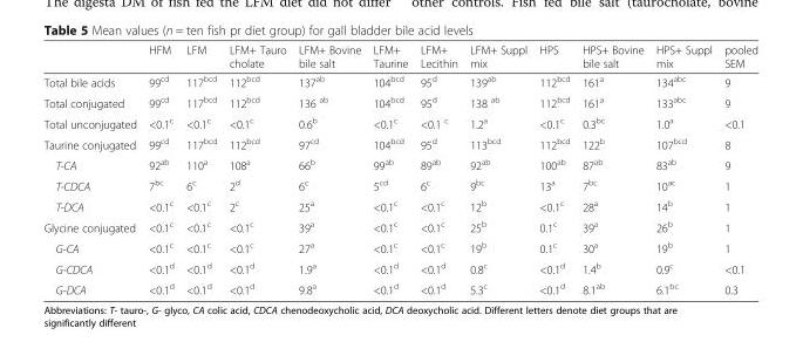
<table><thead><tr><td></td><td>HFM</td><td>LFM</td><td>LFM+ Tauro cholate</td><td>LFM+ Bovine bile salt</td><td>LFM+ Taurine</td><td>LFM+ Lecithin</td><td>LFM+ Suppl mix</td><td>HPS</td><td>HPS+ Bovine bile salt</td><td>HPS+ Suppl mix</td><td>pooled SEM</td></tr></thead><tbody><tr><td>Total bile acids</td><td>99<sup>cd</sup></td><td>117<sup>bcd</sup></td><td>112<sup>bcd</sup></td><td>137<sup>ab</sup></td><td>104<sup>bcd</sup></td><td>95<sup>d</sup></td><td>139<sup>ab</sup></td><td>112<sup>bcd</sup></td><td>161<sup>a</sup></td><td>134<sup>abc</sup></td><td>9</td></tr><tr><td>Total conjugated</td><td>99<sup>cd</sup></td><td>117<sup>bcd</sup></td><td>112<sup>bcd</sup></td><td>136 <sup>ab</sup></td><td>104<sup>bcd</sup></td><td>95<sup>d</sup></td><td>138 <sup>ab</sup></td><td>112<sup>bcd</sup></td><td>161<sup>a</sup></td><td>133<sup>abc</sup></td><td>9</td></tr><tr><td>Total unconjugated</td><td>&lt;0.1<sup>c</sup></td><td>&lt;0.1<sup>c</sup></td><td>&lt;0.1<sup>c</sup></td><td>0.6<sup>b</sup></td><td>&lt;0.1<sup>c</sup></td><td>&lt;0.1 <sup>c</sup></td><td>1.2<sup>a</sup></td><td>&lt;0.1<sup>c</sup></td><td>0.3<sup>bc</sup></td><td>1.0<sup>a</sup></td><td>&lt;0.1</td></tr><tr><td>Taurine conjugated</td><td>99<sup>cd</sup></td><td>117<sup>bcd</sup></td><td>112<sup>bcd</sup></td><td>97<sup>cd</sup></td><td>104<sup>bcd</sup></td><td>95<sup>d</sup></td><td>113<sup>bcd</sup></td><td>112<sup>bcd</sup></td><td>122<sup>b</sup></td><td>107<sup>bcd</sup></td><td>8</td></tr><tr><td>T-CA</td><td>92<sup>ab</sup></td><td>110<sup>a</sup></td><td>108<sup>a</sup></td><td>66<sup>b</sup></td><td>99<sup>ab</sup></td><td>89<sup>ab</sup></td><td>92<sup>ab</sup></td><td>100<sup>ab</sup></td><td>87<sup>ab</sup></td><td>83<sup>ab</sup></td><td>9</td></tr><tr><td>T-CDCA</td><td>7<sup>bc</sup></td><td>6<sup>c</sup></td><td>2<sup>d</sup></td><td>6<sup>c</sup></td><td>5<sup>cd</sup></td><td>6<sup>c</sup></td><td>9<sup>bc</sup></td><td>13<sup>a</sup></td><td>7<sup>bc</sup></td><td>10<sup>ac</sup></td><td>1</td></tr><tr><td>T-DCA</td><td>&lt;0.1<sup>c</sup></td><td>&lt;0.1<sup>c</sup></td><td>2<sup>c</sup></td><td>25<sup>a</sup></td><td>&lt;0.1<sup>c</sup></td><td>&lt;0.1<sup>c</sup></td><td>12<sup>b</sup></td><td>&lt;0.1<sup>c</sup></td><td>28<sup>a</sup></td><td>14<sup>b</sup></td><td>1</td></tr><tr><td>Glycine conjugated</td><td>&lt;0.1<sup>c</sup></td><td>&lt;0.1<sup>c</sup></td><td>&lt;0.1<sup>c</sup></td><td>39<sup>a</sup></td><td>&lt;0.1<sup>c</sup></td><td>&lt;0.1<sup>c</sup></td><td>25<sup>b</sup></td><td>0.1<sup>c</sup></td><td>39<sup>a</sup></td><td>26<sup>b</sup></td><td>1</td></tr><tr><td>G-CA</td><td>&lt;0.1<sup>c</sup></td><td>&lt;0.1<sup>c</sup></td><td>&lt;0.1<sup>c</sup></td><td>27<sup>a</sup></td><td>&lt;0.1<sup>c</sup></td><td>&lt;0.1<sup>c</sup></td><td>19<sup>b</sup></td><td>0.1<sup>c</sup></td><td>30<sup>a</sup></td><td>19<sup>b</sup></td><td>1</td></tr><tr><td>G-CDCA</td><td>&lt;0.1<sup>d</sup></td><td>&lt;0.1<sup>d</sup></td><td>&lt;0.1<sup>d</sup></td><td>1.9<sup>a</sup></td><td>&lt;0.1<sup>d</sup></td><td>&lt;0.1<sup>d</sup></td><td>0.8<sup>c</sup></td><td>&lt;0.1<sup>d</sup></td><td>1.4<sup>b</sup></td><td>0.9<sup>c</sup></td><td>&lt;0.1</td></tr><tr><td>G-DCA</td><td>&lt;0.1<sup>d</sup></td><td>&lt;0.1<sup>d</sup></td><td>&lt;0.1<sup>d</sup></td><td>9.8<sup>a</sup></td><td>&lt;0.1<sup>d</sup></td><td>&lt;0.1<sup>d</sup></td><td>5.3<sup>c</sup></td><td>&lt;0.1<sup>d</sup></td><td>8.1<sup>ab</sup></td><td>6.1<sup>bc</sup></td><td>0.3</td></tr></tbody></table>